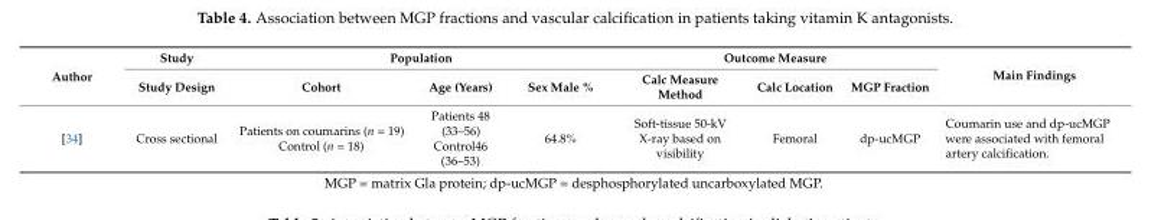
<table><thead><tr><td rowspan="2">Author</td><td rowspan="2">Study Study Design</td><td colspan="3">Population</td><td colspan="3">Outcome Measure</td><td rowspan="2">Main Findings</td></tr><tr><td>Cohort</td><td>Age (Years)</td><td>Sex Male %</td><td>Calc Measure Method</td><td>Calc Location</td><td>MGP Fraction</td></tr></thead><tbody><tr><td>[34]</td><td>Cross sectional</td><td>Patients on coumarins (n = 19) Control (n = 18)</td><td>Patients 48 (33–56) Control46 (36–53)</td><td>64.8%</td><td>Soft-tissue 50-kV X-ray based on visibility</td><td>Femoral</td><td>dp-ucMGP</td><td>Coumarin use and dp-ucMGP were associated with femoral artery calcification.</td></tr></tbody></table>